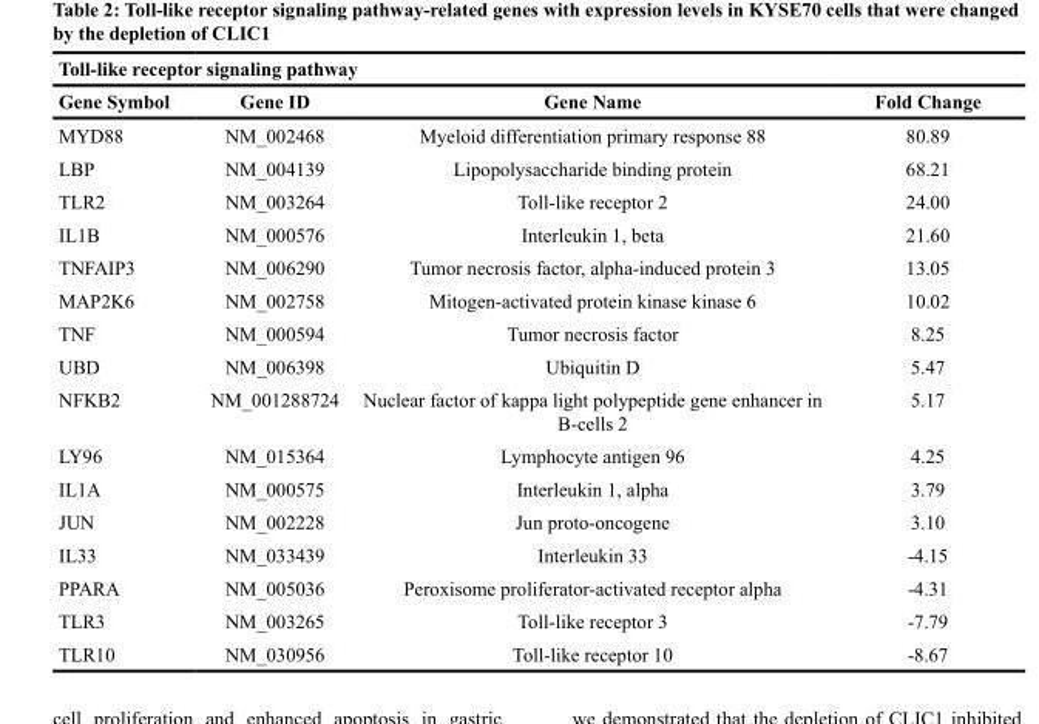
<table><thead><tr><td colspan="4">Toll-like receptor signaling pathway</td></tr><tr><td>Gene Symbol</td><td>Gene ID</td><td>Gene Name</td><td>Fold Change</td></tr></thead><tbody><tr><td>MYD88</td><td>NM_002468</td><td>Myeloid differentiation primary response 88</td><td>80.89</td></tr><tr><td>LBP</td><td>NM_004139</td><td>Lipopolysaccharide binding protein</td><td>68.21</td></tr><tr><td>TLR2</td><td>NM_003264</td><td>Toll-like receptor 2</td><td>24.00</td></tr><tr><td>IL1B</td><td>NM_000576</td><td>Interleukin 1, beta</td><td>21.60</td></tr><tr><td>TNFAIP3</td><td>NM_006290</td><td>Tumor necrosis factor, alpha-induced protein 3</td><td>13.05</td></tr><tr><td>MAP2K6</td><td>NM_002758</td><td>Mitogen-activated protein kinase kinase 6</td><td>10.02</td></tr><tr><td>TNF</td><td>NM_000594</td><td>Tumor necrosis factor</td><td>8.25</td></tr><tr><td>UBD</td><td>NM_006398</td><td>Ubiquitin D</td><td>5.47</td></tr><tr><td>NFKB2</td><td>NM_001288724</td><td>Nuclear factor of kappa light polypeptide gene enhancer in B-cells 2</td><td>5.17</td></tr><tr><td>LY96</td><td>NM_015364</td><td>Lymphocyte antigen 96</td><td>4.25</td></tr><tr><td>IL1A</td><td>NM_000575</td><td>Interleukin 1, alpha</td><td>3.79</td></tr><tr><td>JUN</td><td>NM_002228</td><td>Jun proto-oncogene</td><td>3.10</td></tr><tr><td>IL33</td><td>NM_033439</td><td>Interleukin 33</td><td>-4.15</td></tr><tr><td>PPARA</td><td>NM_005036</td><td>Peroxisome proliferator-activated receptor alpha</td><td>-4.31</td></tr><tr><td>TLR3</td><td>NM_003265</td><td>Toll-like receptor 3</td><td>-7.79</td></tr><tr><td>TLR10</td><td>NM_030956</td><td>Toll-like receptor 10</td><td>-8.67</td></tr></tbody></table>